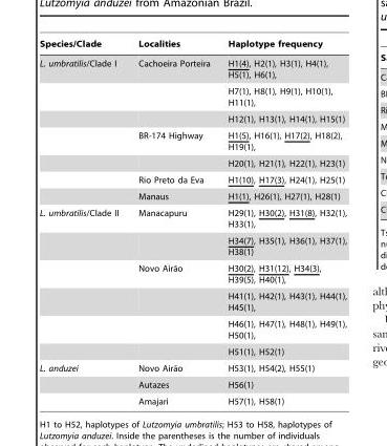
<table><thead><tr><td>Species/Clade</td><td>Localities</td><td>Haplotype frequency</td></tr></thead><tbody><tr><td rowspan="7">L. umbratilis/Clade I</td><td>Cachoeira Porteira</td><td>H1(4), H2(1), H3(1), H4(1), H5(1), H6(1),</td></tr><tr><td></td><td>H7(1), H8(1), H9(1), H10(1), H11(1),</td></tr><tr><td></td><td>H12(1), H13(1), H14(1), H15(1)</td></tr><tr><td>BR-174 Highway</td><td>H1(5), H16(1), H17(2), H18(2), H19(1),</td></tr><tr><td></td><td>H20(1), H21(1), H22(1), H23(1)</td></tr><tr><td>Rio Preto da Eva</td><td>H1(10), H17(3), H24(1), H25(1)</td></tr><tr><td>Manaus</td><td>H1(1), H26(1), H27(1), H28(1)</td></tr><tr><td rowspan="6">L. umbratilis/Clade II</td><td>Manacapuru</td><td>H29(1), H30(2), H31(8), H32(1), H33(1),</td></tr><tr><td></td><td>H34(7), H35(1), H36(1), H37(1), H38(1)</td></tr><tr><td>Novo Aira˜o</td><td>H30(2), H31(12), H34(3), H39(5), H40(1),</td></tr><tr><td></td><td>H41(1), H42(1), H43(1), H44(1), H45(1),</td></tr><tr><td></td><td>H46(1), H47(1), H48(1), H49(1), H50(1),</td></tr><tr><td></td><td>H51(1), H52(1)</td></tr><tr><td rowspan="3">L. anduzei</td><td>Novo Aira˜o</td><td>H53(1), H54(2), H55(1)</td></tr><tr><td>Autazes</td><td>H56(1)</td></tr><tr><td>Amajari</td><td>H57(1), H58(1)</td></tr></tbody></table>